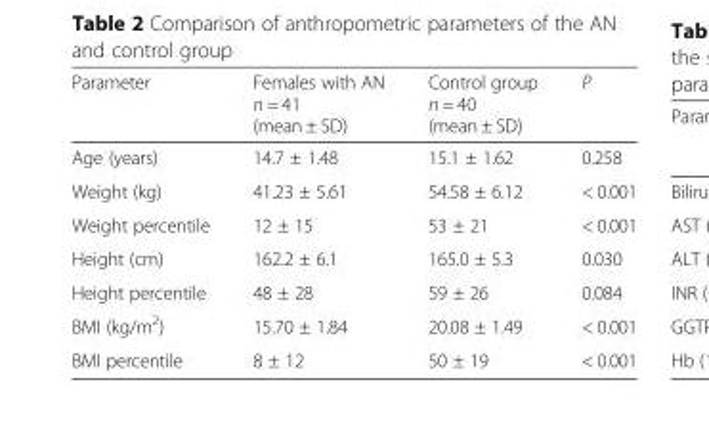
<table><thead><tr><td>Parameter</td><td>Females with AN n = 41 (mean ± SD)</td><td>Control group n = 40 (mean ± SD)</td><td>P</td></tr></thead><tbody><tr><td>Age (years)</td><td>14.7 ± 1.48</td><td>15.1 ± 1.62</td><td>0.258</td></tr><tr><td>Weight (kg)</td><td>41.23 ± 5.61</td><td>54.58 ± 6.12</td><td>&lt; 0.001</td></tr><tr><td>Weight percentile</td><td>12 ± 15</td><td>53 ± 21</td><td>&lt; 0.001</td></tr><tr><td>Height (cm)</td><td>162.2 ± 6.1</td><td>165.0 ± 5.3</td><td>0.030</td></tr><tr><td>Height percentile</td><td>48 ± 28</td><td>59 ± 26</td><td>0.084</td></tr><tr><td>BMI (kg/m<sup>2</sup>)</td><td>15.70 ± 1.84</td><td>20.08 ± 1.49</td><td>&lt; 0.001</td></tr><tr><td>BMI percentile</td><td>8 ± 12</td><td>50 ± 19</td><td>&lt; 0.001</td></tr></tbody></table>